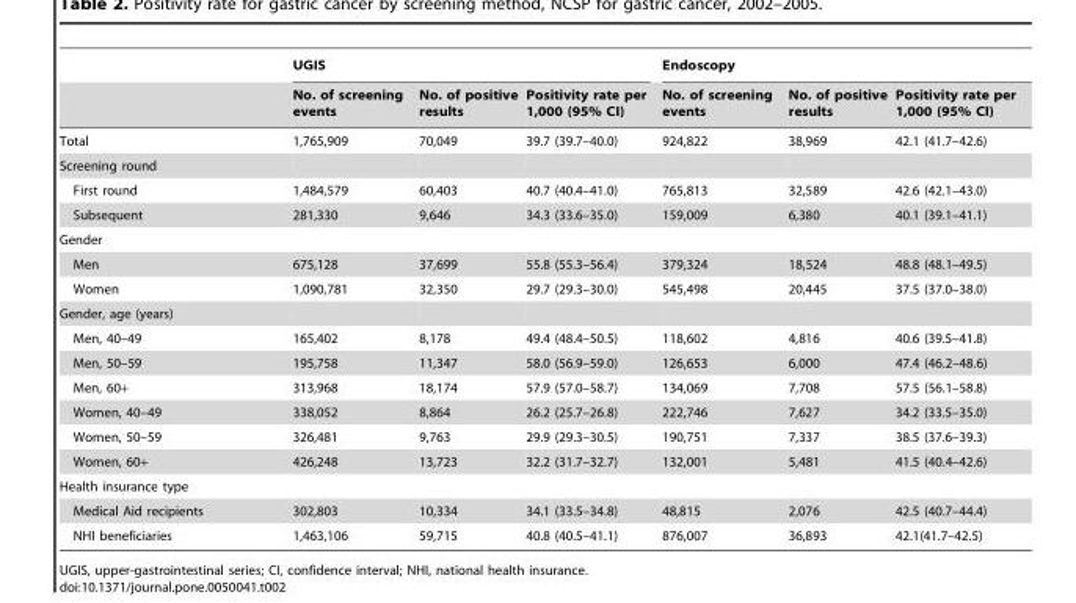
<table><thead><tr><td rowspan="2"></td><td colspan="3">UGIS</td><td colspan="3">Endoscopy</td></tr><tr><td>No. of screening events</td><td>No. of positive results</td><td>Positivity rate per 1,000 (95% CI)</td><td>No. of screening events</td><td>No. of positive results</td><td>Positivity rate per 1,000 (95% CI)</td></tr></thead><tbody><tr><td>Total</td><td>1,765,909</td><td>70,049</td><td>39.7 (39.7–40.0)</td><td>924,822</td><td>38,969</td><td>42.1 (41.7–42.6)</td></tr><tr><td colspan="7">Screening round</td></tr><tr><td>First round</td><td>1,484,579</td><td>60,403</td><td>40.7 (40.4–41.0)</td><td>765,813</td><td>32,589</td><td>42.6 (42.1–43.0)</td></tr><tr><td>Subsequent</td><td>281,330</td><td>9,646</td><td>34.3 (33.6–35.0)</td><td>159,009</td><td>6,380</td><td>40.1 (39.1–41.1)</td></tr><tr><td colspan="7">Gender</td></tr><tr><td>Men</td><td>675,128</td><td>37,699</td><td>55.8 (55.3–56.4)</td><td>379,324</td><td>18,524</td><td>48.8 (48.1–49.5)</td></tr><tr><td>Women</td><td>1,090,781</td><td>32,350</td><td>29.7 (29.3–30.0)</td><td>545,498</td><td>20,445</td><td>37.5 (37.0–38.0)</td></tr><tr><td colspan="7">Gender, age (years)</td></tr><tr><td>Men, 40–49</td><td>165,402</td><td>8,178</td><td>49.4 (48.4–50.5)</td><td>118,602</td><td>4,816</td><td>40.6 (39.5–41.8)</td></tr><tr><td>Men, 50–59</td><td>195,758</td><td>11,347</td><td>58.0 (56.9–59.0)</td><td>126,653</td><td>6,000</td><td>47.4 (46.2–48.6)</td></tr><tr><td>Men, 60+</td><td>313,968</td><td>18,174</td><td>57.9 (57.0–58.7)</td><td>134,069</td><td>7,708</td><td>57.5 (56.1–58.8)</td></tr><tr><td>Women, 40–49</td><td>338,052</td><td>8,864</td><td>26.2 (25.7–26.8)</td><td>222,746</td><td>7,627</td><td>34.2 (33.5–35.0)</td></tr><tr><td>Women, 50–59</td><td>326,481</td><td>9,763</td><td>29.9 (29.3–30.5)</td><td>190,751</td><td>7,337</td><td>38.5 (37.6–39.3)</td></tr><tr><td>Women, 60+</td><td>426,248</td><td>13,723</td><td>32.2 (31.7–32.7)</td><td>132,001</td><td>5,481</td><td>41.5 (40.4–42.6)</td></tr><tr><td colspan="7">Health insurance type</td></tr><tr><td>Medical Aid recipients</td><td>302,803</td><td>10,334</td><td>34.1 (33.5–34.8)</td><td>48,815</td><td>2,076</td><td>42.5 (40.7–44.4)</td></tr><tr><td>NHI beneficiaries</td><td>1,463,106</td><td>59,715</td><td>40.8 (40.5–41.1)</td><td>876,007</td><td>36,893</td><td>42.1(41.7–42.5)</td></tr></tbody></table>